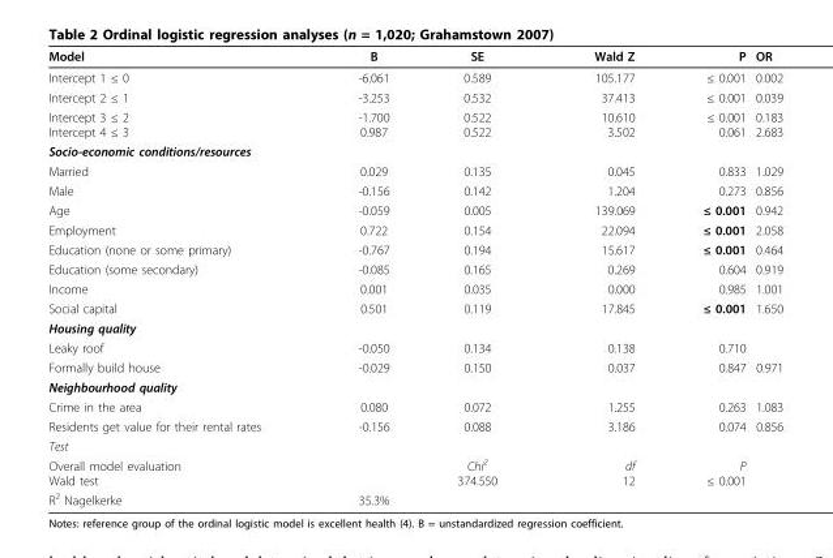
<table><thead><tr><td>Model</td><td>B</td><td>SE</td><td>Wald Z</td><td>P</td><td>OR</td></tr></thead><tbody><tr><td>Intercept 1 ≤ 0</td><td>-6.061</td><td>0.589</td><td>105.177</td><td>≤ 0.001</td><td>0.002</td></tr><tr><td>Intercept 2 ≤ 1</td><td>-3.253</td><td>0.532</td><td>37.413</td><td>≤ 0.001</td><td>0.039</td></tr><tr><td>Intercept 3 ≤ 2 Intercept 4 ≤ 3</td><td>-1.700 0.987</td><td>0.522 0.522</td><td>10.610 3.502</td><td>≤ 0.001 0.061</td><td>0.183 2.683</td></tr><tr><td colspan="6">Socio-economic conditions/resources</td></tr><tr><td>Married</td><td>0.029</td><td>0.135</td><td>0.045</td><td>0.833</td><td>1.029</td></tr><tr><td>Male</td><td>-0.156</td><td>0.142</td><td>1.204</td><td>0.273</td><td>0.856</td></tr><tr><td>Age</td><td>-0.059</td><td>0.005</td><td>139.069</td><td>≤ 0.001</td><td>0.942</td></tr><tr><td>Employment</td><td>0.722</td><td>0.154</td><td>22.094</td><td>≤ 0.001</td><td>2.058</td></tr><tr><td>Education (none or some primary)</td><td>-0.767</td><td>0.194</td><td>15.617</td><td>≤ 0.001</td><td>0.464</td></tr><tr><td>Education (some secondary)</td><td>-0.085</td><td>0.165</td><td>0.269</td><td>0.604</td><td>0.919</td></tr><tr><td>Income</td><td>0.001</td><td>0.035</td><td>0.000</td><td>0.985</td><td>1.001</td></tr><tr><td>Social capital</td><td>0.501</td><td>0.119</td><td>17.845</td><td>≤ 0.001</td><td>1.650</td></tr><tr><td colspan="6">Housing quality</td></tr><tr><td>Leaky roof</td><td>-0.050</td><td>0.134</td><td>0.138</td><td>0.710</td><td></td></tr><tr><td>Formally build house</td><td>-0.029</td><td>0.150</td><td>0.037</td><td>0.847</td><td>0.971</td></tr><tr><td colspan="6">Neighbourhood quality</td></tr><tr><td>Crime in the area</td><td>0.080</td><td>0.072</td><td>1.255</td><td>0.263</td><td>1.083</td></tr><tr><td>Residents get value for their rental rates</td><td>-0.156</td><td>0.088</td><td>3.186</td><td>0.074</td><td>0.856</td></tr><tr><td colspan="6">Test</td></tr><tr><td>Overall model evaluation Wald test</td><td></td><td>Chi<sup>2</sup> 374.550</td><td>df 12</td><td>P ≤ 0.001</td><td></td></tr><tr><td>R<sup>2</sup> Nagelkerke</td><td>35.3%</td><td></td><td></td><td></td><td></td></tr></tbody></table>